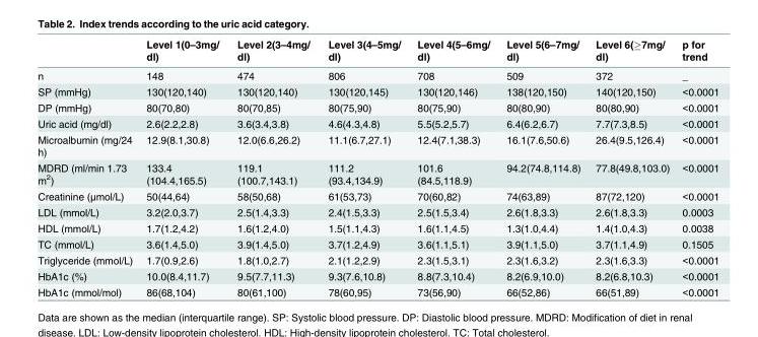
<table><thead><tr><td></td><td>Level 1(0–3mg/ dl)</td><td>Level 2(3–4mg/ dl)</td><td>Level 3(4–5mg/ dl)</td><td>Level 4(5–6mg/ dl)</td><td>Level 5(6–7mg/ dl)</td><td>Level 6(≥7mg/ dl)</td><td>p for trend</td></tr></thead><tbody><tr><td>n</td><td>148</td><td>474</td><td>806</td><td>708</td><td>509</td><td>372</td><td>_</td></tr><tr><td>SP (mmHg)</td><td>130(120,140)</td><td>130(120,140)</td><td>130(120,145)</td><td>130(120,146)</td><td>138(120,150)</td><td>140(120,150)</td><td>&lt;0.0001</td></tr><tr><td>DP (mmHg)</td><td>80(70,80)</td><td>80(70,85)</td><td>80(75,90)</td><td>80(75,90)</td><td>80(80,90)</td><td>80(80,90)</td><td>&lt;0.0001</td></tr><tr><td>Uric acid (mg/dl)</td><td>2.6(2.2,2.8)</td><td>3.6(3.4,3.8)</td><td>4.6(4.3,4.8)</td><td>5.5(5.2,5.7)</td><td>6.4(6.2,6.7)</td><td>7.7(7.3,8.5)</td><td>&lt;0.0001</td></tr><tr><td>Microalbumin (mg/24 h)</td><td>12.9(8.1,30.8)</td><td>12.0(6.6,26.2)</td><td>11.1(6.7,27.1)</td><td>12.4(7.1,38.3)</td><td>16.1(7.6,50.6)</td><td>26.4(9.5,126.4)</td><td>&lt;0.0001</td></tr><tr><td>MDRD (ml/min 1.73 m<sup>2</sup>)</td><td>133.4 (104.4,165.5)</td><td>119.1 (100.7,143.1)</td><td>111.2 (93.4,134.9)</td><td>101.6 (84.5,118.9)</td><td>94.2(74.8,114.8)</td><td>77.8(49.8,103.0)</td><td>&lt;0.0001</td></tr><tr><td>Creatinine (μmol/L)</td><td>50(44,64)</td><td>58(50,68)</td><td>61(53,73)</td><td>70(60,82)</td><td>74(63,89)</td><td>87(72,120)</td><td>&lt;0.0001</td></tr><tr><td>LDL (mmol/L)</td><td>3.2(2.0,3.7)</td><td>2.5(1.4,3.3)</td><td>2.4(1.5,3.3)</td><td>2.5(1.5,3.4)</td><td>2.6(1.8,3.3)</td><td>2.6(1.8,3.3)</td><td>0.0003</td></tr><tr><td>HDL (mmol/L)</td><td>1.7(1.2,4.2)</td><td>1.6(1.2,4.0)</td><td>1.5(1.1,4.3)</td><td>1.6(1.1,4.5)</td><td>1.3(1.0,4.4)</td><td>1.4(1.0,4.3)</td><td>0.0038</td></tr><tr><td>TC (mmol/L)</td><td>3.6(1.4,5.0)</td><td>3.9(1.4,5.0)</td><td>3.7(1.2,4.9)</td><td>3.6(1.1,5.1)</td><td>3.9(1.1,5.0)</td><td>3.7(1.1,4.9)</td><td>0.1505</td></tr><tr><td>Triglyceride (mmol/L)</td><td>1.7(0.9,2.6)</td><td>1.8(1.0,2.7)</td><td>2.1(1.2,2.9)</td><td>2.3(1.5,3.1)</td><td>2.3(1.6,3.2)</td><td>2.3(1.6,3.3)</td><td>&lt;0.0001</td></tr><tr><td>HbA1c (%)</td><td>10.0(8.4,11.7)</td><td>9.5(7.7,11.3)</td><td>9.3(7.6,10.8)</td><td>8.8(7.3,10.4)</td><td>8.2(6.9,10.0)</td><td>8.2(6.8,10.3)</td><td>&lt;0.0001</td></tr><tr><td>HbA1c (mmol/mol)</td><td>86(68,104)</td><td>80(61,100)</td><td>78(60,95)</td><td>73(56,90)</td><td>66(52,86)</td><td>66(51,89)</td><td>&lt;0.0001</td></tr></tbody></table>